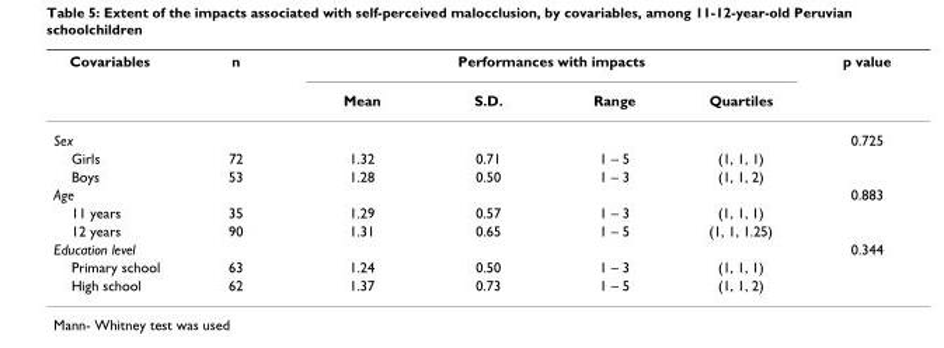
<table><thead><tr><td rowspan="2">Covariables</td><td rowspan="2">n</td><td colspan="4">Performances with impacts</td><td rowspan="2">p value</td></tr><tr><td>Mean</td><td>S.D.</td><td>Range</td><td>Quartiles</td></tr></thead><tbody><tr><td>Sex</td><td></td><td></td><td></td><td></td><td></td><td>0.725</td></tr><tr><td>Girls</td><td>72</td><td>1.32</td><td>0.71</td><td>1 – 5</td><td>(1, 1, 1)</td><td></td></tr><tr><td>Boys</td><td>53</td><td>1.28</td><td>0.50</td><td>1 – 3</td><td>(1, 1, 2)</td><td></td></tr><tr><td>Age</td><td></td><td></td><td></td><td></td><td></td><td>0.883</td></tr><tr><td>11 years</td><td>35</td><td>1.29</td><td>0.57</td><td>1 – 3</td><td>(1, 1, 1)</td><td></td></tr><tr><td>12 years</td><td>90</td><td>1.31</td><td>0.65</td><td>1 – 5</td><td>(1, 1, 1.25)</td><td></td></tr><tr><td>Education level</td><td></td><td></td><td></td><td></td><td></td><td>0.344</td></tr><tr><td>Primary school</td><td>63</td><td>1.24</td><td>0.50</td><td>1 – 3</td><td>(1, 1, 1)</td><td></td></tr><tr><td>High school</td><td>62</td><td>1.37</td><td>0.73</td><td>1 – 5</td><td>(1, 1, 2)</td><td></td></tr></tbody></table>